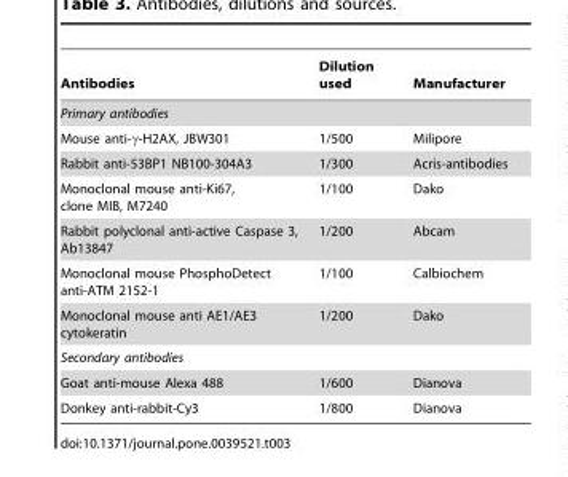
<table><thead><tr><td>Antibodies</td><td>Dilution used</td><td>Manufacturer</td></tr></thead><tbody><tr><td colspan="3">Primary antibodies</td></tr><tr><td>Mouse anti-γ-H2AX, JBW301</td><td>1/500</td><td>Milipore</td></tr><tr><td>Rabbit anti-53BP1 NB100-304A3</td><td>1/300</td><td>Acris-antibodies</td></tr><tr><td>Monoclonal mouse anti-Ki67, clone MIB, M7240</td><td>1/100</td><td>Dako</td></tr><tr><td>Rabbit polyclonal anti-active Caspase 3, Ab13847</td><td>1/200</td><td>Abcam</td></tr><tr><td>Monoclonal mouse PhosphoDetect anti-ATM 2152-1</td><td>1/100</td><td>Calbiochem</td></tr><tr><td>Monoclonal mouse anti AE1/AE3 cytokeratin</td><td>1/200</td><td>Dako</td></tr><tr><td colspan="3">Secondary antibodies</td></tr><tr><td>Goat anti-mouse Alexa 488</td><td>1/600</td><td>Dianova</td></tr><tr><td>Donkey anti-rabbit-Cy3</td><td>1/800</td><td>Dianova</td></tr></tbody></table>